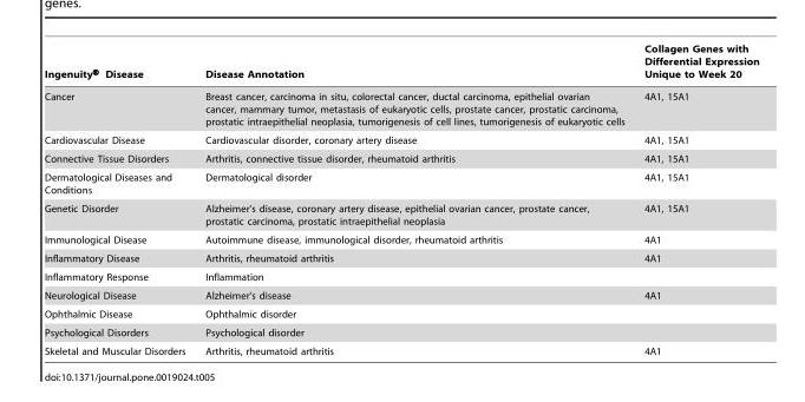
<table><thead><tr><td>Ingenuity® Disease</td><td>Disease Annotation</td><td>Collagen Genes with Differential Expression Unique to Week 20</td></tr></thead><tbody><tr><td>Cancer</td><td>Breast cancer, carcinoma in situ, colorectal cancer, ductal carcinoma, epithelial ovarian cancer, mammary tumor, metastasis of eukaryotic cells, prostate cancer, prostatic carcinoma, prostatic intraepithelial neoplasia, tumorigenesis of cell lines, tumorigenesis of eukaryotic cells</td><td>4A1, 15A1</td></tr><tr><td>Cardiovascular Disease</td><td>Cardiovascular disorder, coronary artery disease</td><td>4A1, 15A1</td></tr><tr><td>Connective Tissue Disorders</td><td>Arthritis, connective tissue disorder, rheumatoid arthritis</td><td>4A1, 15A1</td></tr><tr><td>Dermatological Diseases and Conditions</td><td>Dermatological disorder</td><td>4A1, 15A1</td></tr><tr><td>Genetic Disorder</td><td>Alzheimer’s disease, coronary artery disease, epithelial ovarian cancer, prostate cancer, prostatic carcinoma, prostatic intraepithelial neoplasia</td><td>4A1, 15A1</td></tr><tr><td>Immunological Disease</td><td>Autoimmune disease, immunological disorder, rheumatoid arthritis</td><td>4A1</td></tr><tr><td>Inflammatory Disease</td><td>Arthritis, rheumatoid arthritis</td><td>4A1</td></tr><tr><td>Inflammatory Response</td><td>Inflammation</td><td></td></tr><tr><td>Neurological Disease</td><td>Alzheimer’s disease</td><td>4A1</td></tr><tr><td>Ophthalmic Disease</td><td>Ophthalmic disorder</td><td></td></tr><tr><td>Psychological Disorders</td><td>Psychological disorder</td><td></td></tr><tr><td>Skeletal and Muscular Disorders</td><td>Arthritis, rheumatoid arthritis</td><td>4A1</td></tr></tbody></table>